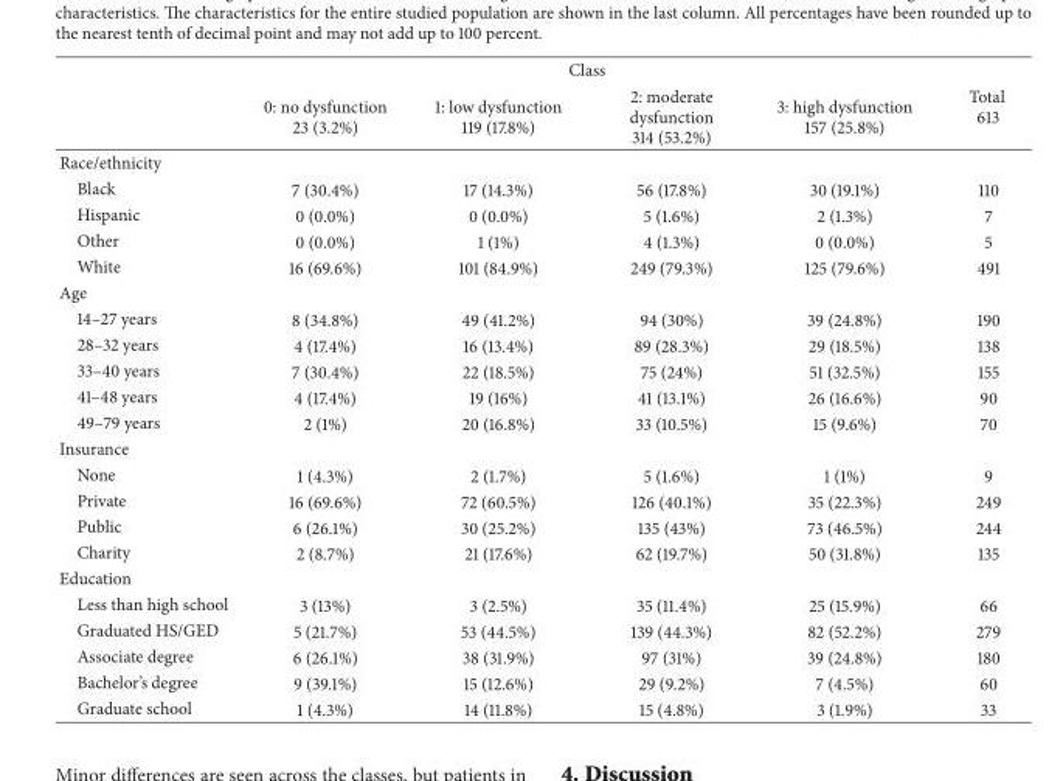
<table><thead><tr><td rowspan="2"></td><td colspan="4">Class</td><td rowspan="2">Total 613</td></tr><tr><td>0: no dysfunction 23 (3.2%)</td><td>1: low dysfunction 119 (17.8%)</td><td>2: moderate dysfunction 314 (53.2%)</td><td>3: high dysfunction 157 (25.8%)</td></tr></thead><tbody><tr><td colspan="6">Race/ethnicity</td></tr><tr><td>Black</td><td>7 (30.4%)</td><td>17 (14.3%)</td><td>56 (17.8%)</td><td>30 (19.1%)</td><td>110</td></tr><tr><td>Hispanic</td><td>0 (0.0%)</td><td>0 (0.0%)</td><td>5 (1.6%)</td><td>2 (1.3%)</td><td>7</td></tr><tr><td>Other</td><td>0 (0.0%)</td><td>1 (1%)</td><td>4 (1.3%)</td><td>0 (0.0%)</td><td>5</td></tr><tr><td>White</td><td>16 (69.6%)</td><td>101 (84.9%)</td><td>249 (79.3%)</td><td>125 (79.6%)</td><td>491</td></tr><tr><td colspan="6">Age</td></tr><tr><td>14–27 years</td><td>8 (34.8%)</td><td>49 (41.2%)</td><td>94 (30%)</td><td>39 (24.8%)</td><td>190</td></tr><tr><td>28–32 years</td><td>4 (17.4%)</td><td>16 (13.4%)</td><td>89 (28.3%)</td><td>29 (18.5%)</td><td>138</td></tr><tr><td>33–40 years</td><td>7 (30.4%)</td><td>22 (18.5%)</td><td>75 (24%)</td><td>51 (32.5%)</td><td>155</td></tr><tr><td>41–48 years</td><td>4 (17.4%)</td><td>19 (16%)</td><td>41 (13.1%)</td><td>26 (16.6%)</td><td>90</td></tr><tr><td>49–79 years</td><td>2 (1%)</td><td>20 (16.8%)</td><td>33 (10.5%)</td><td>15 (9.6%)</td><td>70</td></tr><tr><td colspan="6">Insurance</td></tr><tr><td>None</td><td>1 (4.3%)</td><td>2 (1.7%)</td><td>5 (1.6%)</td><td>1 (1%)</td><td>9</td></tr><tr><td>Private</td><td>16 (69.6%)</td><td>72 (60.5%)</td><td>126 (40.1%)</td><td>35 (22.3%)</td><td>249</td></tr><tr><td>Public</td><td>6 (26.1%)</td><td>30 (25.2%)</td><td>135 (43%)</td><td>73 (46.5%)</td><td>244</td></tr><tr><td>Charity</td><td>2 (8.7%)</td><td>21 (17.6%)</td><td>62 (19.7%)</td><td>50 (31.8%)</td><td>135</td></tr><tr><td colspan="6">Education</td></tr><tr><td>Less than high school</td><td>3 (13%)</td><td>3 (2.5%)</td><td>35 (11.4%)</td><td>25 (15.9%)</td><td>66</td></tr><tr><td>Graduated HS/GED</td><td>5 (21.7%)</td><td>53 (44.5%)</td><td>139 (44.3%)</td><td>82 (52.2%)</td><td>279</td></tr><tr><td>Associate degree</td><td>6 (26.1%)</td><td>38 (31.9%)</td><td>97 (31%)</td><td>39 (24.8%)</td><td>180</td></tr><tr><td>Bachelor’s degree</td><td>9 (39.1%)</td><td>15 (12.6%)</td><td>29 (9.2%)</td><td>7 (4.5%)</td><td>60</td></tr><tr><td>Graduate school</td><td>1 (4.3%)</td><td>14 (11.8%)</td><td>15 (4.8%)</td><td>3 (1.9%)</td><td>33</td></tr></tbody></table>